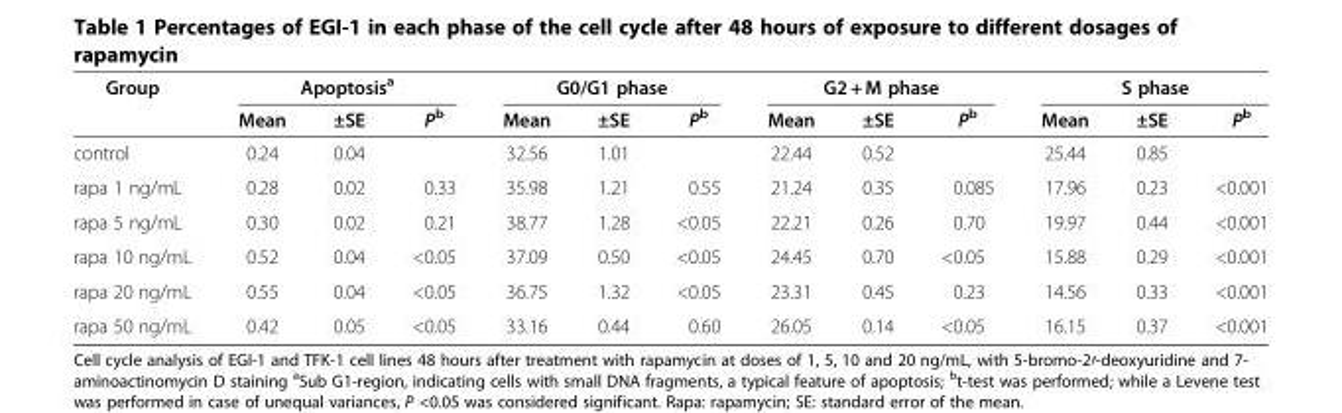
<table><thead><tr><td rowspan="2">Group</td><td colspan="3">Apoptosis<sup>a</sup></td><td colspan="3">G0/G1 phase</td><td colspan="3">G2 + M phase</td><td colspan="3">S phase</td></tr><tr><td>Mean</td><td>±SE</td><td>P<sup>b</sup></td><td>Mean</td><td>±SE</td><td>P<sup>b</sup></td><td>Mean</td><td>±SE</td><td>P<sup>b</sup></td><td>Mean</td><td>±SE</td><td>P<sup>b</sup></td></tr></thead><tbody><tr><td>control</td><td>0.24</td><td>0.04</td><td></td><td>32.56</td><td>1.01</td><td></td><td>22.44</td><td>0.52</td><td></td><td>25.44</td><td>0.85</td><td></td></tr><tr><td>rapa 1 ng/mL</td><td>0.28</td><td>0.02</td><td>0.33</td><td>35.98</td><td>1.21</td><td>0.55</td><td>21.24</td><td>0.35</td><td>0.085</td><td>17.96</td><td>0.23</td><td>&lt;0.001</td></tr><tr><td>rapa 5 ng/mL</td><td>0.30</td><td>0.02</td><td>0.21</td><td>38.77</td><td>1.28</td><td>&lt;0.05</td><td>22.21</td><td>0.26</td><td>0.70</td><td>19.97</td><td>0.44</td><td>&lt;0.001</td></tr><tr><td>rapa 10 ng/mL</td><td>0.52</td><td>0.04</td><td>&lt;0.05</td><td>37.09</td><td>0.50</td><td>&lt;0.05</td><td>24.45</td><td>0.70</td><td>&lt;0.05</td><td>15.88</td><td>0.29</td><td>&lt;0.001</td></tr><tr><td>rapa 20 ng/mL</td><td>0.55</td><td>0.04</td><td>&lt;0.05</td><td>36.75</td><td>1.32</td><td>&lt;0.05</td><td>23.31</td><td>0.45</td><td>0.23</td><td>14.56</td><td>0.33</td><td>&lt;0.001</td></tr><tr><td>rapa 50 ng/mL</td><td>0.42</td><td>0.05</td><td>&lt;0.05</td><td>33.16</td><td>0.44</td><td>0.60</td><td>26.05</td><td>0.14</td><td>&lt;0.05</td><td>16.15</td><td>0.37</td><td>&lt;0.001</td></tr></tbody></table>